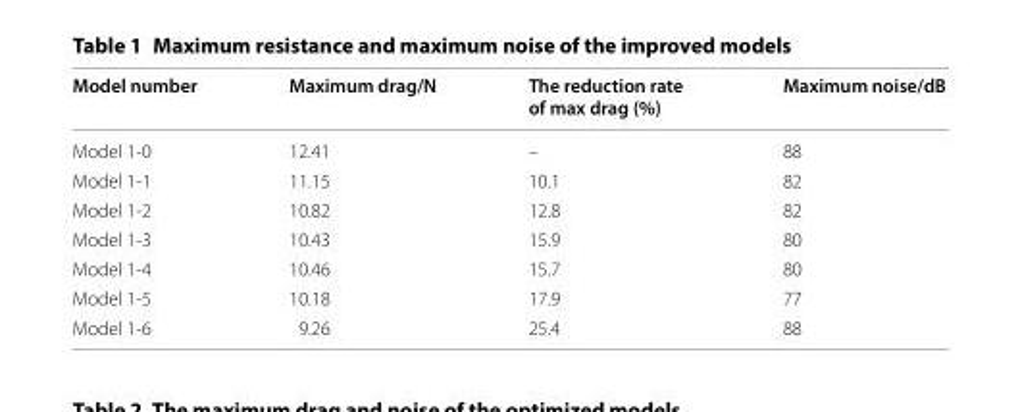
<table><thead><tr><td>Model number</td><td>Maximum drag/N</td><td>The reduction rate of max drag (%)</td><td>Maximum noise/dB</td></tr></thead><tbody><tr><td>Model 1-0</td><td>12.41</td><td>–</td><td>88</td></tr><tr><td>Model 1-1</td><td>11.15</td><td>10.1</td><td>82</td></tr><tr><td>Model 1-2</td><td>10.82</td><td>12.8</td><td>82</td></tr><tr><td>Model 1-3</td><td>10.43</td><td>15.9</td><td>80</td></tr><tr><td>Model 1-4</td><td>10.46</td><td>15.7</td><td>80</td></tr><tr><td>Model 1-5</td><td>10.18</td><td>17.9</td><td>77</td></tr><tr><td>Model 1-6</td><td>9.26</td><td>25.4</td><td>88</td></tr></tbody></table>